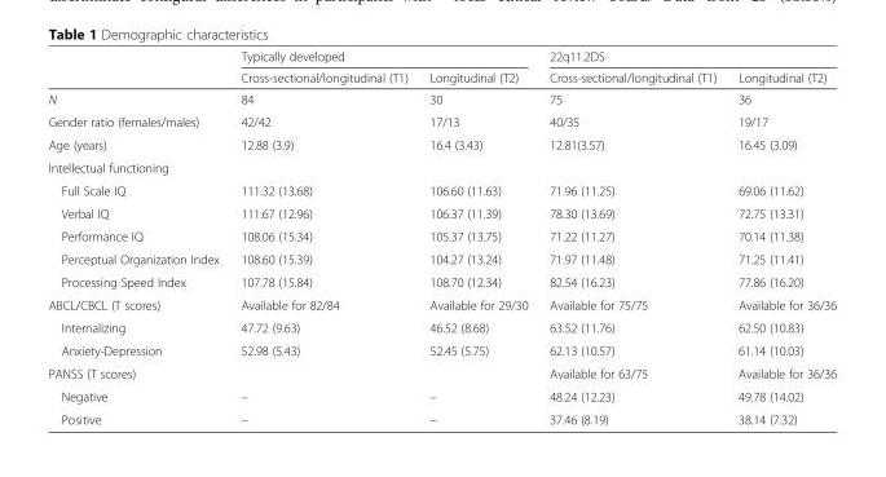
<table><thead><tr><td rowspan="2"></td><td colspan="2">Typically developed</td><td colspan="2">22q11.2DS</td></tr><tr><td>Cross-sectional/longitudinal (T1)</td><td>Longitudinal (T2)</td><td>Cross-sectional/longitudinal (T1)</td><td>Longitudinal (T2)</td></tr></thead><tbody><tr><td>N</td><td>84</td><td>30</td><td>75</td><td>36</td></tr><tr><td>Gender ratio (females/males)</td><td>42/42</td><td>17/13</td><td>40/35</td><td>19/17</td></tr><tr><td>Age (years)</td><td>12.88 (3.9)</td><td>16.4 (3.43)</td><td>12.81(3.57)</td><td>16.45 (3.09)</td></tr><tr><td colspan="5">Intellectual functioning</td></tr><tr><td>Full Scale IQ</td><td>111.32 (13.68)</td><td>106.60 (11.63)</td><td>71.96 (11.25)</td><td>69.06 (11.62)</td></tr><tr><td>Verbal IQ</td><td>111.67 (12.96)</td><td>106.37 (11.39)</td><td>78.30 (13.69)</td><td>72.75 (13.31)</td></tr><tr><td>Performance IQ</td><td>108.06 (15.34)</td><td>105.37 (13.75)</td><td>71.22 (11.27)</td><td>70.14 (11.38)</td></tr><tr><td>Perceptual Organization Index</td><td>108.60 (15.39)</td><td>104.27 (13.24)</td><td>71.97 (11.48)</td><td>71.25 (11.41)</td></tr><tr><td>Processing Speed Index</td><td>107.78 (15.84)</td><td>108.70 (12.34)</td><td>82.54 (16.23)</td><td>77.86 (16.20)</td></tr><tr><td>ABCL/CBCL (T scores)</td><td>Available for 82/84</td><td>Available for 29/30</td><td>Available for 75/75</td><td>Available for 36/36</td></tr><tr><td>Internalizing</td><td>47.72 (9.63)</td><td>46.52 (8.68)</td><td>63.52 (11.76)</td><td>62.50 (10.83)</td></tr><tr><td>Anxiety-Depression</td><td>52.98 (5.43)</td><td>52.45 (5.75)</td><td>62.13 (10.57)</td><td>61.14 (10.03)</td></tr><tr><td>PANSS (T scores)</td><td></td><td></td><td>Available for 63/75</td><td>Available for 36/36</td></tr><tr><td>Negative</td><td>–</td><td>–</td><td>48.24 (12.23)</td><td>49.78 (14.02)</td></tr><tr><td>Positive</td><td>–</td><td>–</td><td>37.46 (8.19)</td><td>38.14 (7.32)</td></tr></tbody></table>